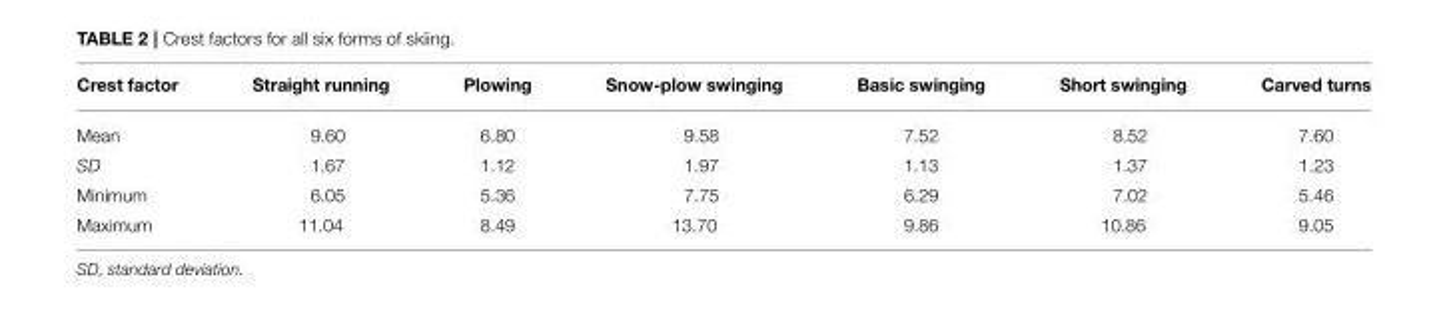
<table><thead><tr><td>Crest factor</td><td>Straight running</td><td>Plowing</td><td>Snow-plow swinging</td><td>Basic swinging</td><td>Short swinging</td><td>Carved turns</td></tr></thead><tbody><tr><td>Mean</td><td>9.60</td><td>6.80</td><td>9.58</td><td>7.52</td><td>8.52</td><td>7.60</td></tr><tr><td>SD</td><td>1.67</td><td>1.12</td><td>1.97</td><td>1.13</td><td>1.37</td><td>1.23</td></tr><tr><td>Minimum</td><td>6.05</td><td>5.36</td><td>7.75</td><td>6.29</td><td>7.02</td><td>5.46</td></tr><tr><td>Maximum</td><td>11.04</td><td>8.49</td><td>13.70</td><td>9.86</td><td>10.86</td><td>9.05</td></tr></tbody></table>